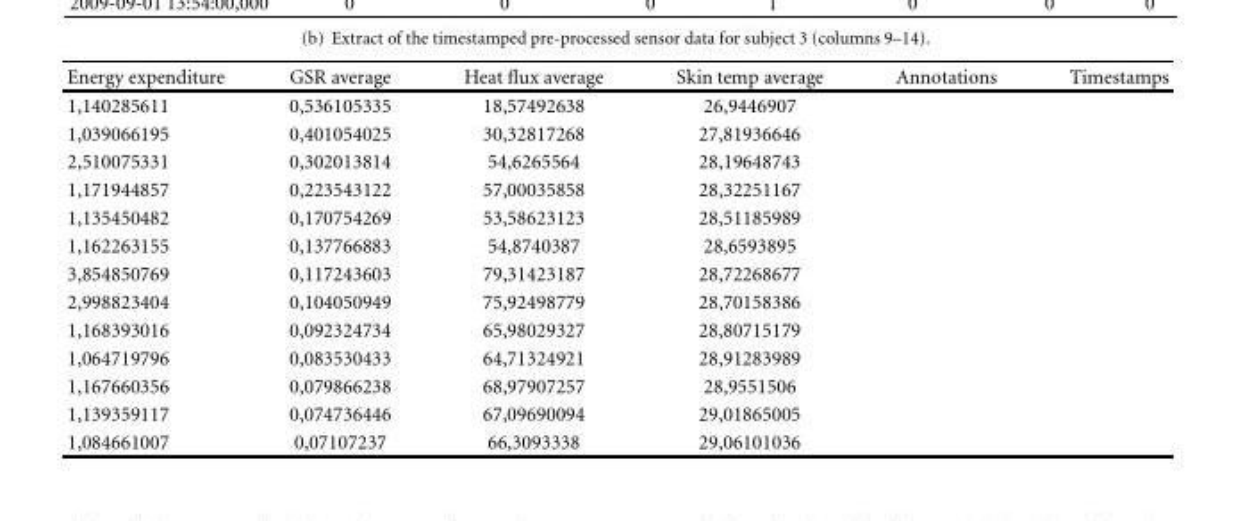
<table><thead><tr><td>Energy expenditure</td><td>GSR average</td><td>Heat flux average</td><td>Skin temp average</td><td>Annotations</td><td>Timestamps</td></tr></thead><tbody><tr><td>1,140285611</td><td>0,536105335</td><td>18,57492638</td><td>26,9446907</td><td></td><td></td></tr><tr><td>1,039066195</td><td>0,401054025</td><td>30,32817268</td><td>27,81936646</td><td></td><td></td></tr><tr><td>2,510075331</td><td>0,302013814</td><td>54,6265564</td><td>28,19648743</td><td></td><td></td></tr><tr><td>1,171944857</td><td>0,223543122</td><td>57,00035858</td><td>28,32251167</td><td></td><td></td></tr><tr><td>1,135450482</td><td>0,170754269</td><td>53,58623123</td><td>28,51185989</td><td></td><td></td></tr><tr><td>1,162263155</td><td>0,137766883</td><td>54,8740387</td><td>28,6593895</td><td></td><td></td></tr><tr><td>3,854850769</td><td>0,117243603</td><td>79,31423187</td><td>28,72268677</td><td></td><td></td></tr><tr><td>2,998823404</td><td>0,104050949</td><td>75,92498779</td><td>28,70158386</td><td></td><td></td></tr><tr><td>1,168393016</td><td>0,092324734</td><td>65,98029327</td><td>28,80715179</td><td></td><td></td></tr><tr><td>1,064719796</td><td>0,083530433</td><td>64,71324921</td><td>28,91283989</td><td></td><td></td></tr><tr><td>1,167660356</td><td>0,079866238</td><td>68,97907257</td><td>28,9551506</td><td></td><td></td></tr><tr><td>1,139359117</td><td>0,074736446</td><td>67,09690094</td><td>29,01865005</td><td></td><td></td></tr><tr><td>1,084661007</td><td>0,07107237</td><td>66,3093338</td><td>29,06101036</td><td></td><td></td></tr></tbody></table>